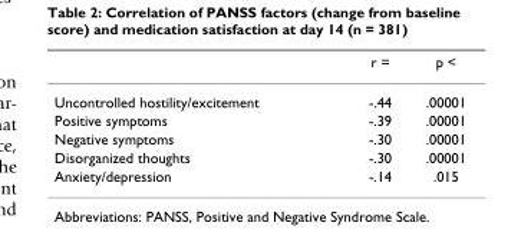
<table><thead><tr><td></td><td>r =</td><td>p &lt;</td></tr></thead><tbody><tr><td>Uncontrolled hostility/excitement</td><td>-.44</td><td>.00001</td></tr><tr><td>Positive symptoms</td><td>-.39</td><td>.00001</td></tr><tr><td>Negative symptoms</td><td>-.30</td><td>.00001</td></tr><tr><td>Disorganized thoughts</td><td>-.30</td><td>.00001</td></tr><tr><td>Anxiety/depression</td><td>-.14</td><td>.015</td></tr></tbody></table>